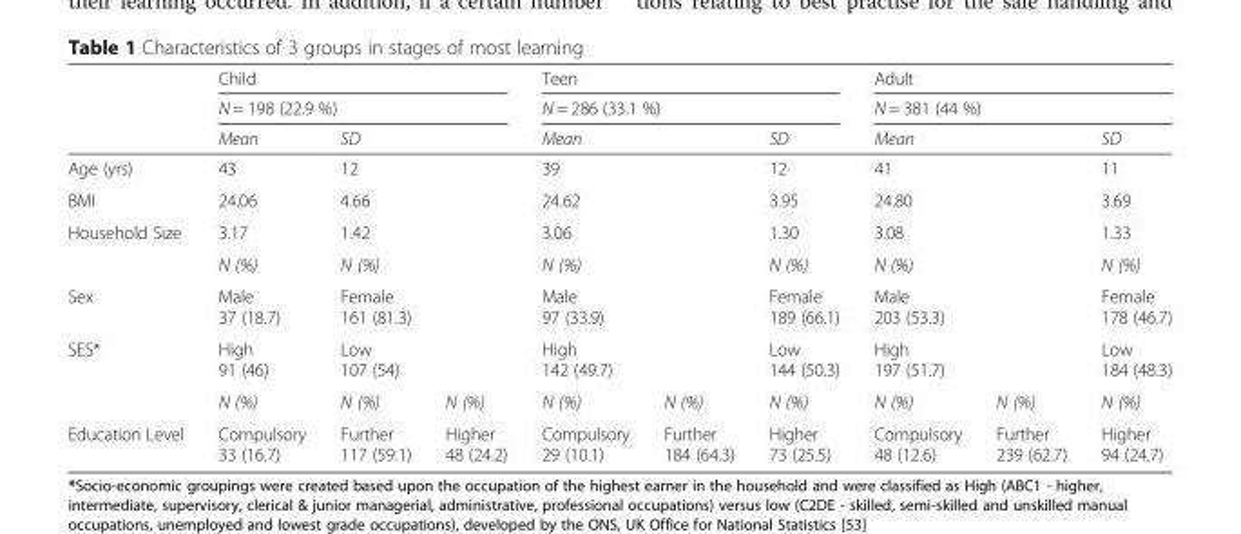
<table><thead><tr><td rowspan="3"></td><td rowspan="2" colspan="3">Child N = 198 (22.9 %)</td><td rowspan="2" colspan="3">Teen N = 286 (33.1 %)</td><td rowspan="2" colspan="3">Adult N = 381 (44 %)</td></tr><tr></tr><tr><td>Mean</td><td colspan="2">SD</td><td colspan="2">Mean</td><td>SD</td><td colspan="2">Mean</td><td>SD</td></tr></thead><tbody><tr><td>Age (yrs)</td><td>43</td><td colspan="2">12</td><td colspan="2">39</td><td>12</td><td colspan="2">41</td><td>11</td></tr><tr><td>BMI</td><td>24.06</td><td colspan="2">4.66</td><td colspan="2">24.62</td><td>3.95</td><td colspan="2">24.80</td><td>3.69</td></tr><tr><td rowspan="2">Household Size</td><td>3.17</td><td colspan="2">1.42</td><td colspan="2">3.06</td><td>1.30</td><td colspan="2">3.08</td><td>1.33</td></tr><tr><td>N (%)</td><td colspan="2">N (%)</td><td colspan="2">N (%)</td><td>N (%)</td><td colspan="2">N (%)</td><td>N (%)</td></tr><tr><td>Sex</td><td>Male 37 (18.7)</td><td colspan="2">Female 161 (81.3)</td><td colspan="2">Male 97 (33.9)</td><td>Female 189 (66.1)</td><td colspan="2">Male 203 (53.3)</td><td>Female 178 (46.7)</td></tr><tr><td rowspan="2">SES*</td><td>High 91 (46)</td><td colspan="2">Low 107 (54)</td><td colspan="2">High 142 (49.7)</td><td>Low 144 (50.3)</td><td colspan="2">High 197 (51.7)</td><td>Low 184 (48.3)</td></tr><tr><td>N (%)</td><td>N (%)</td><td>N (%)</td><td>N (%)</td><td>N (%)</td><td>N (%)</td><td>N (%)</td><td>N (%)</td><td>N (%)</td></tr><tr><td>Education Level</td><td>Compulsory 33 (16.7)</td><td>Further 117 (59.1)</td><td>Higher 48 (24.2)</td><td>Compulsory 29 (10.1)</td><td>Further 184 (64.3)</td><td>Higher 73 (25.5)</td><td>Compulsory 48 (12.6)</td><td>Further 239 (62.7)</td><td>Higher 94 (24.7)</td></tr></tbody></table>